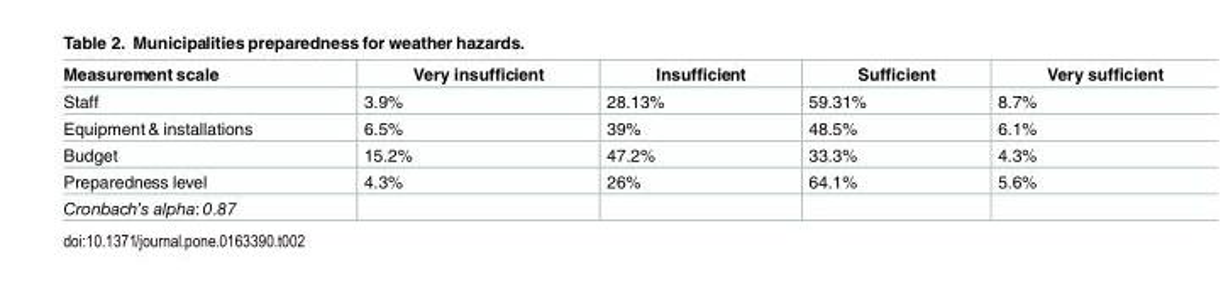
<table><thead><tr><td>Measurement scale</td><td>Very insufficient</td><td>Insufficient</td><td>Sufficient</td><td>Very sufficient</td></tr></thead><tbody><tr><td>Staff</td><td>3.9%</td><td>28.13%</td><td>59.31%</td><td>8.7%</td></tr><tr><td>Equipment &amp; installations</td><td>6.5%</td><td>39%</td><td>48.5%</td><td>6.1%</td></tr><tr><td>Budget</td><td>15.2%</td><td>47.2%</td><td>33.3%</td><td>4.3%</td></tr><tr><td>Preparedness level</td><td>4.3%</td><td>26%</td><td>64.1%</td><td>5.6%</td></tr><tr><td>Cronbach’s alpha: 0.87</td><td></td><td></td><td></td><td></td></tr></tbody></table>